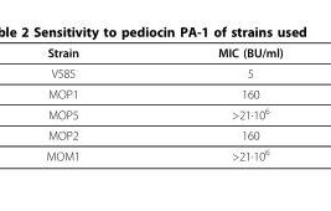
<table><thead><tr><td>Strain</td><td>MIC (BU/ml)</td></tr></thead><tbody><tr><td>V585</td><td>5</td></tr><tr><td>MOP1</td><td>160</td></tr><tr><td>MOP5</td><td>&gt;21·10<sup>6</sup></td></tr><tr><td>MOP2</td><td>160</td></tr><tr><td>MOM1</td><td>&gt;21·10<sup>6</sup></td></tr></tbody></table>